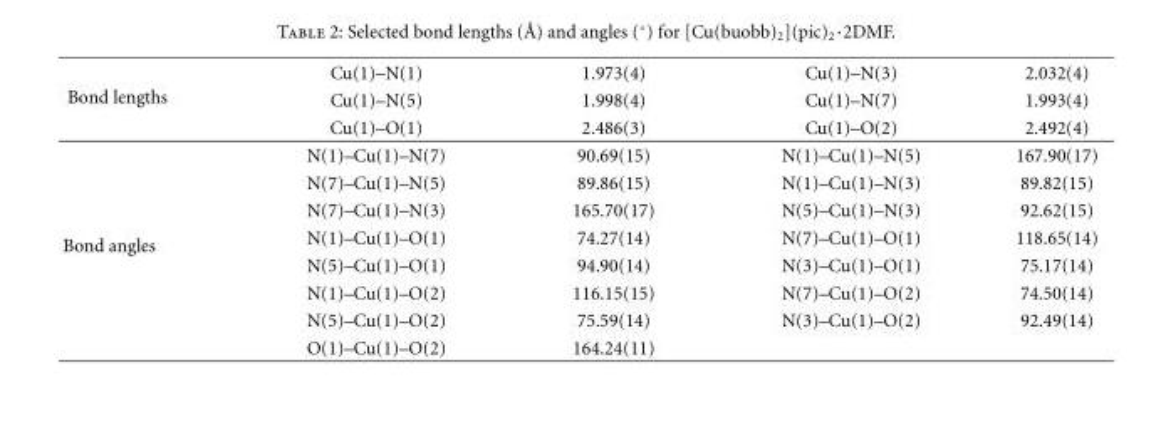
<table><thead><tr><td rowspan="3">Bond lengths</td><td rowspan="3">Cu(1)–N(1) Cu(1)–N(5) Cu(1)–O(1)</td><td rowspan="3">1.973(4) 1.998(4) 2.486(3)</td><td rowspan="3">Cu(1)–N(3) Cu(1)–N(7) Cu(1)–O(2)</td><td rowspan="3">2.032(4) 1.993(4) 2.492(4)</td></tr><tr></tr><tr></tr></thead><tbody><tr><td rowspan="8">Bond angles</td><td>N(1)–Cu(1)–N(7)</td><td>90.69(15)</td><td>N(1)–Cu(1)–N(5)</td><td>167.90(17)</td></tr><tr><td>N(7)–Cu(1)–N(5)</td><td>89.86(15)</td><td>N(1)–Cu(1)–N(3)</td><td>89.82(15)</td></tr><tr><td>N(7)–Cu(1)–N(3)</td><td>165.70(17)</td><td>N(5)–Cu(1)–N(3)</td><td>92.62(15)</td></tr><tr><td>N(1)–Cu(1)–O(1)</td><td>74.27(14)</td><td>N(7)–Cu(1)–O(1)</td><td>118.65(14)</td></tr><tr><td>N(5)–Cu(1)–O(1)</td><td>94.90(14)</td><td>N(3)–Cu(1)–O(1)</td><td>75.17(14)</td></tr><tr><td>N(1)–Cu(1)–O(2)</td><td>116.15(15)</td><td>N(7)–Cu(1)–O(2)</td><td>74.50(14)</td></tr><tr><td>N(5)–Cu(1)–O(2)</td><td>75.59(14)</td><td>N(3)–Cu(1)–O(2)</td><td>92.49(14)</td></tr><tr><td>O(1)–Cu(1)–O(2)</td><td>164.24(11)</td><td></td><td></td></tr></tbody></table>